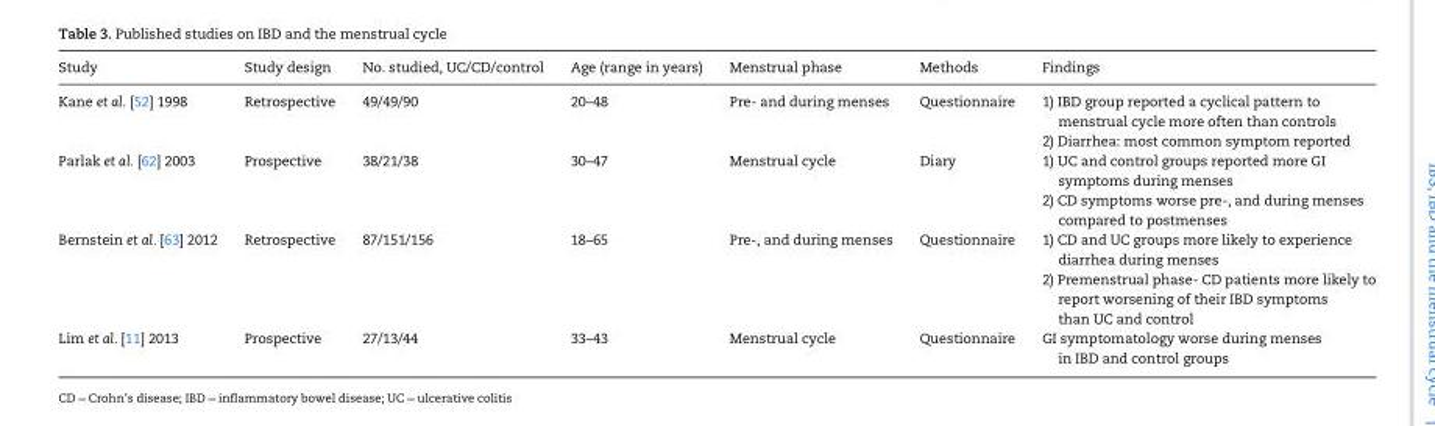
<table><thead><tr><td>Study</td><td>Study design</td><td>No. studied, UC/CD/control</td><td>Age (range in years)</td><td>Menstrual phase</td><td>Methods</td><td>Findings</td></tr></thead><tbody><tr><td rowspan="2">Kane et al. [52] 1998</td><td rowspan="2">Retrospective</td><td rowspan="2">49/49/90</td><td rowspan="2">20–48</td><td rowspan="2">Pre- and during menses</td><td rowspan="2">Questionnaire</td><td>1) IBD group reported a cyclical pattern to menstrual cycle more often than controls</td></tr><tr><td>2) Diarrhea: most common symptom reported</td></tr><tr><td rowspan="2">Parlak et al. [62] 2003</td><td rowspan="2">Prospective</td><td rowspan="2">38/21/38</td><td rowspan="2">30–47</td><td rowspan="2">Menstrual cycle</td><td rowspan="2">Diary</td><td>1) UC and control groups reported more GI symptoms during menses</td></tr><tr><td>2) CD symptoms worse pre-, and during menses compared to postmenses</td></tr><tr><td rowspan="2">Bernstein et al. [63] 2012</td><td rowspan="2">Retrospective</td><td rowspan="2">87/151/156</td><td rowspan="2">18–65</td><td rowspan="2">Pre-, and during menses</td><td rowspan="2">Questionnaire</td><td>1) CD and UC groups more likely to experience diarrhea during menses</td></tr><tr><td>2) Premenstrual phase- CD patients more likely to report worsening of their IBD symptoms than UC and control</td></tr><tr><td>Lim et al. [11] 2013</td><td>Prospective</td><td>27/13/44</td><td>33–43</td><td>Menstrual cycle</td><td>Questionnaire</td><td>GI symptomatology worse during menses in IBD and control groups</td></tr></tbody></table>